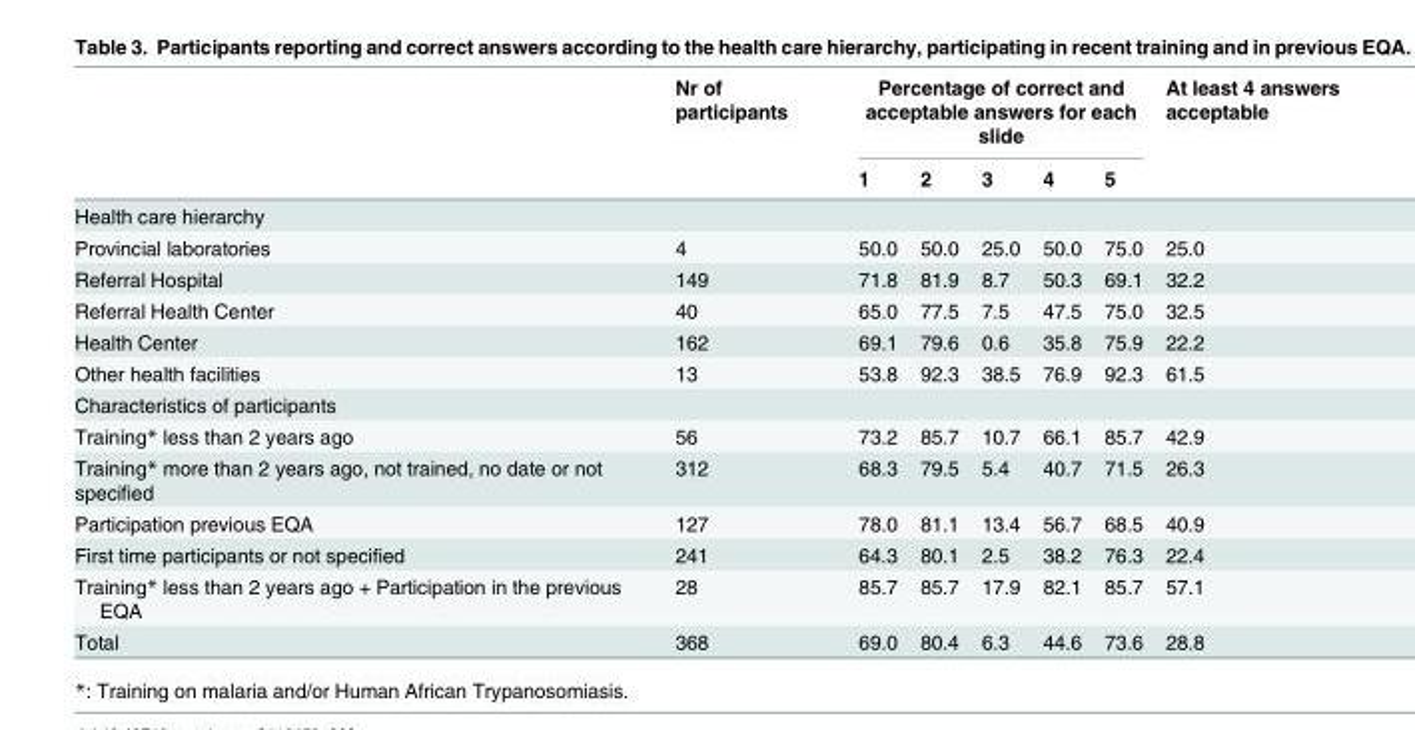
<table><thead><tr><td rowspan="2"></td><td rowspan="2">Nr of participants</td><td colspan="5">Percentage of correct and acceptable answers for each slide</td><td rowspan="2">At least 4 answers acceptable</td></tr><tr><td>1</td><td>2</td><td>3</td><td>4</td><td>5</td></tr></thead><tbody><tr><td colspan="8">Health care hierarchy</td></tr><tr><td>Provincial laboratories</td><td>4</td><td>50.0</td><td>50.0</td><td>25.0</td><td>50.0</td><td>75.0</td><td>25.0</td></tr><tr><td>Referral Hospital</td><td>149</td><td>71.8</td><td>81.9</td><td>8.7</td><td>50.3</td><td>69.1</td><td>32.2</td></tr><tr><td>Referral Health Center</td><td>40</td><td>65.0</td><td>77.5</td><td>7.5</td><td>47.5</td><td>75.0</td><td>32.5</td></tr><tr><td>Health Center</td><td>162</td><td>69.1</td><td>79.6</td><td>0.6</td><td>35.8</td><td>75.9</td><td>22.2</td></tr><tr><td>Other health facilities</td><td>13</td><td>53.8</td><td>92.3</td><td>38.5</td><td>76.9</td><td>92.3</td><td>61.5</td></tr><tr><td colspan="8">Characteristics of participants</td></tr><tr><td>Training* less than 2 years ago</td><td>56</td><td>73.2</td><td>85.7</td><td>10.7</td><td>66.1</td><td>85.7</td><td>42.9</td></tr><tr><td>Training* more than 2 years ago, not trained, no date or not specified</td><td>312</td><td>68.3</td><td>79.5</td><td>5.4</td><td>40.7</td><td>71.5</td><td>26.3</td></tr><tr><td>Participation previous EQA</td><td>127</td><td>78.0</td><td>81.1</td><td>13.4</td><td>56.7</td><td>68.5</td><td>40.9</td></tr><tr><td>First time participants or not specified</td><td>241</td><td>64.3</td><td>80.1</td><td>2.5</td><td>38.2</td><td>76.3</td><td>22.4</td></tr><tr><td>Training* less than 2 years ago + Participation in the previous EQA</td><td>28</td><td>85.7</td><td>85.7</td><td>17.9</td><td>82.1</td><td>85.7</td><td>57.1</td></tr><tr><td>Total</td><td>368</td><td>69.0</td><td>80.4</td><td>6.3</td><td>44.6</td><td>73.6</td><td>28.8</td></tr></tbody></table>